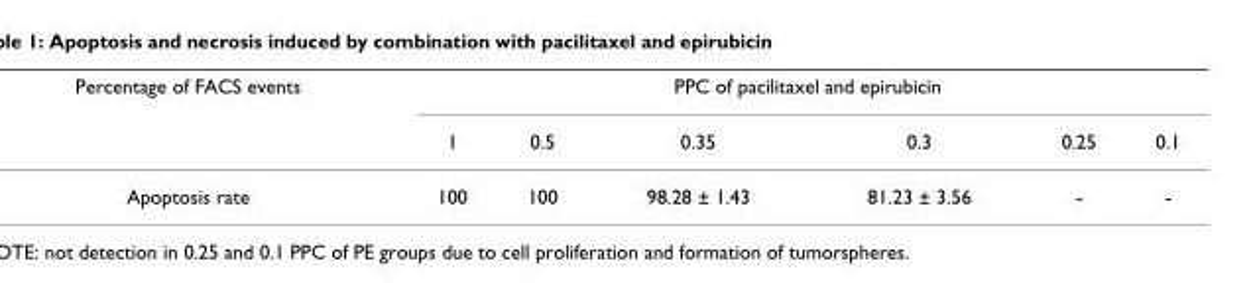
<table><thead><tr><td rowspan="2">Percentage of FACS events</td><td colspan="6">PPC of pacilitaxel and epirubicin</td></tr><tr><td>1</td><td>0.5</td><td>0.35</td><td>0.3</td><td>0.25</td><td>0.1</td></tr></thead><tbody><tr><td>Apoptosis rate</td><td>100</td><td>100</td><td>98.28 ± 1.43</td><td>81.23 ± 3.56</td><td>-</td><td>-</td></tr></tbody></table>